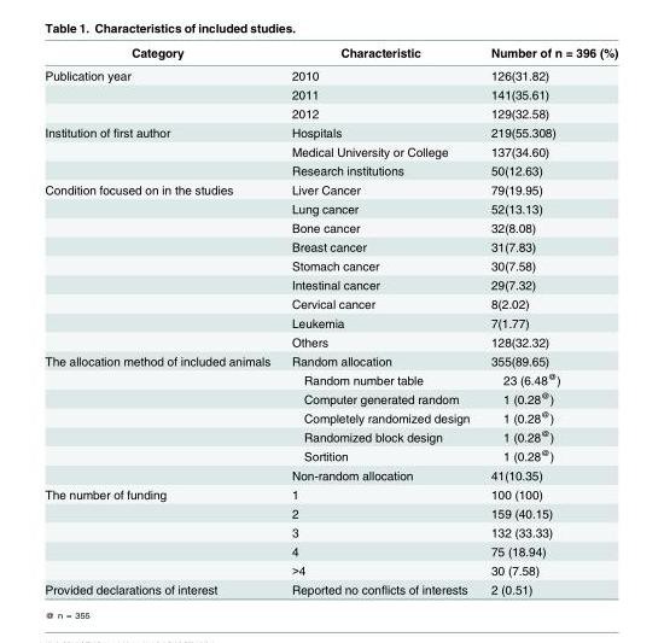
<table><thead><tr><td>Category</td><td>Characteristic</td><td>Number of n = 396 (%)</td></tr></thead><tbody><tr><td rowspan="3">Publication year</td><td>2010</td><td>126(31.82)</td></tr><tr><td>2011</td><td>141(35.61)</td></tr><tr><td>2012</td><td>129(32.58)</td></tr><tr><td rowspan="3">Institution of first author</td><td>Hospitals</td><td>219(55.308)</td></tr><tr><td>Medical University or College</td><td>137(34.60)</td></tr><tr><td>Research institutions</td><td>50(12.63)</td></tr><tr><td rowspan="9">Condition focused on in the studies</td><td>Liver Cancer</td><td>79(19.95)</td></tr><tr><td>Lung cancer</td><td>52(13.13)</td></tr><tr><td>Bone cancer</td><td>32(8.08)</td></tr><tr><td>Breast cancer</td><td>31(7.83)</td></tr><tr><td>Stomach cancer</td><td>30(7.58)</td></tr><tr><td>Intestinal cancer</td><td>29(7.32)</td></tr><tr><td>Cervical cancer</td><td>8(2.02)</td></tr><tr><td>Leukemia</td><td>7(1.77)</td></tr><tr><td>Others</td><td>128(32.32)</td></tr><tr><td rowspan="7">The allocation method of included animals</td><td>Random allocation</td><td>355(89.65)</td></tr><tr><td>Random number table</td><td>23 (6.48<sup>@</sup>)</td></tr><tr><td>Computer generated random</td><td>1 (0.28<sup>@</sup>)</td></tr><tr><td>Completely randomized design</td><td>1 (0.28<sup>@</sup>)</td></tr><tr><td>Randomized block design</td><td>1 (0.28<sup>@</sup>)</td></tr><tr><td>Sortition</td><td>1 (0.28<sup>@</sup>)</td></tr><tr><td>Non-random allocation</td><td>41(10.35)</td></tr><tr><td rowspan="5">The number of funding</td><td>1</td><td>100 (100)</td></tr><tr><td>2</td><td>159 (40.15)</td></tr><tr><td>3</td><td>132 (33.33)</td></tr><tr><td>4</td><td>75 (18.94)</td></tr><tr><td>&gt;4</td><td>30 (7.58)</td></tr><tr><td>Provided declarations of interest</td><td>Reported no conflicts of interests</td><td>2 (0.51)</td></tr></tbody></table>